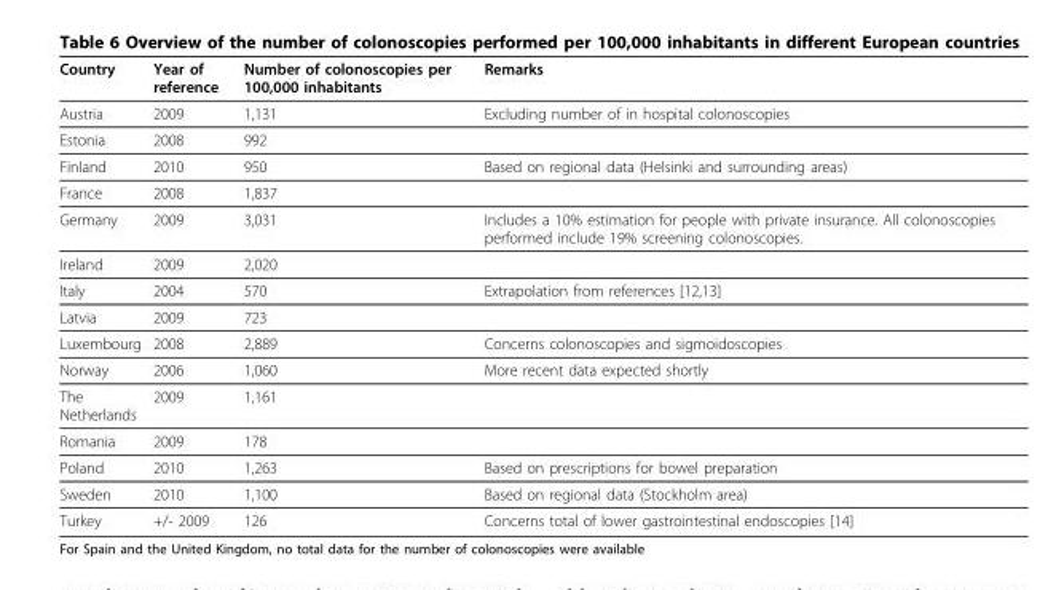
<table><thead><tr><td>Country</td><td>Year of reference</td><td>Number of colonoscopies per 100,000 inhabitants</td><td>Remarks</td></tr></thead><tbody><tr><td>Austria</td><td>2009</td><td>1,131</td><td>Excluding number of in hospital colonoscopies</td></tr><tr><td>Estonia</td><td>2008</td><td>992</td><td></td></tr><tr><td>Finland</td><td>2010</td><td>950</td><td>Based on regional data (Helsinki and surrounding areas)</td></tr><tr><td>France</td><td>2008</td><td>1,837</td><td></td></tr><tr><td>Germany</td><td>2009</td><td>3,031</td><td>Includes a 10% estimation for people with private insurance. All colonoscopies performed include 19% screening colonoscopies.</td></tr><tr><td>Ireland</td><td>2009</td><td>2,020</td><td></td></tr><tr><td>Italy</td><td>2004</td><td>570</td><td>Extrapolation from references [12,13]</td></tr><tr><td>Latvia</td><td>2009</td><td>723</td><td></td></tr><tr><td>Luxembourg</td><td>2008</td><td>2,889</td><td>Concerns colonoscopies and sigmoidoscopies</td></tr><tr><td>Norway</td><td>2006</td><td>1,060</td><td>More recent data expected shortly</td></tr><tr><td>The Netherlands</td><td>2009</td><td>1,161</td><td></td></tr><tr><td>Romania</td><td>2009</td><td>178</td><td></td></tr><tr><td>Poland</td><td>2010</td><td>1,263</td><td>Based on prescriptions for bowel preparation</td></tr><tr><td>Sweden</td><td>2010</td><td>1,100</td><td>Based on regional data (Stockholm area)</td></tr><tr><td>Turkey</td><td>+/- 2009</td><td>126</td><td>Concerns total of lower gastrointestinal endoscopies [14]</td></tr></tbody></table>